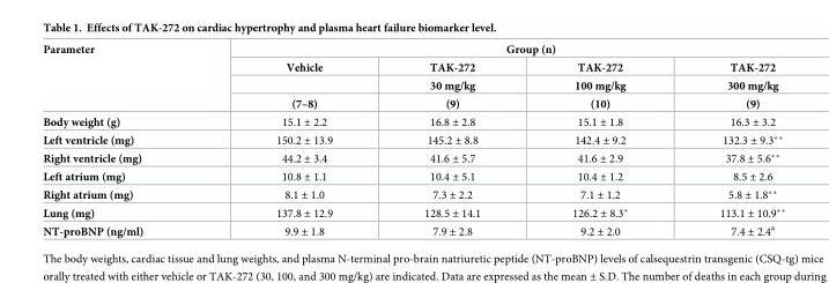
<table><thead><tr><td rowspan="4">Parameter</td><td colspan="4">Group (n)</td></tr><tr><td rowspan="3">Vehicle (7–8)</td><td rowspan="3">TAK-272 30 mg/kg (9)</td><td rowspan="3">TAK-272 100 mg/kg (10)</td><td rowspan="3">TAK-272 300 mg/kg (9)</td></tr><tr></tr><tr></tr></thead><tbody><tr><td>Body weight (g)</td><td>15.1 ± 2.2</td><td>16.8 ± 2.8</td><td>15.1 ± 1.8</td><td>16.3 ± 3.2</td></tr><tr><td>Left ventricle (mg)</td><td>150.2 ± 13.9</td><td>145.2 ± 8.8</td><td>142.4 ± 9.2</td><td>132.3 ± 9.3**</td></tr><tr><td>Right ventricle (mg)</td><td>44.2 ± 3.4</td><td>41.6 ± 5.7</td><td>41.6 ± 2.9</td><td>37.8 ± 5.6**</td></tr><tr><td>Left atrium (mg)</td><td>10.8 ± 1.1</td><td>10.4 ± 5.1</td><td>10.4 ± 1.2</td><td>8.5 ± 2.6</td></tr><tr><td>Right atrium (mg)</td><td>8.1 ± 1.0</td><td>7.3 ± 2.2</td><td>7.1 ± 1.2</td><td>5.8 ± 1.8**</td></tr><tr><td>Lung (mg)</td><td>137.8 ± 12.9</td><td>128.5 ± 14.1</td><td>126.2 ± 8.3*</td><td>113.1 ± 10.9**</td></tr><tr><td>NT-proBNP (ng/ml)</td><td>9.9 ± 1.8</td><td>7.9 ± 2.8</td><td>9.2 ± 2.0</td><td>7.4 ± 2.4<sup>a</sup></td></tr></tbody></table>